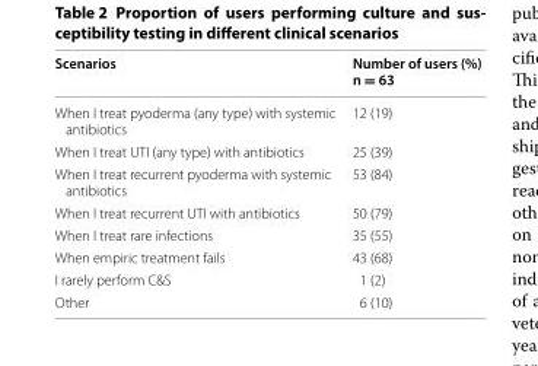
<table><thead><tr><td>Scenarios</td><td>Number of users (%) n = 63</td></tr></thead><tbody><tr><td>When I treat pyoderma (any type) with systemic antibiotics</td><td>12 (19)</td></tr><tr><td>When I treat UTI (any type) with antibiotics</td><td>25 (39)</td></tr><tr><td>When I treat recurrent pyoderma with systemic antibiotics</td><td>53 (84)</td></tr><tr><td>When I treat recurrent UTI with antibiotics</td><td>50 (79)</td></tr><tr><td>When I treat rare infections</td><td>35 (55)</td></tr><tr><td>When empiric treatment fails</td><td>43 (68)</td></tr><tr><td>I rarely perform C&amp;S</td><td>1 (2)</td></tr><tr><td>Other</td><td>6 (10)</td></tr></tbody></table>